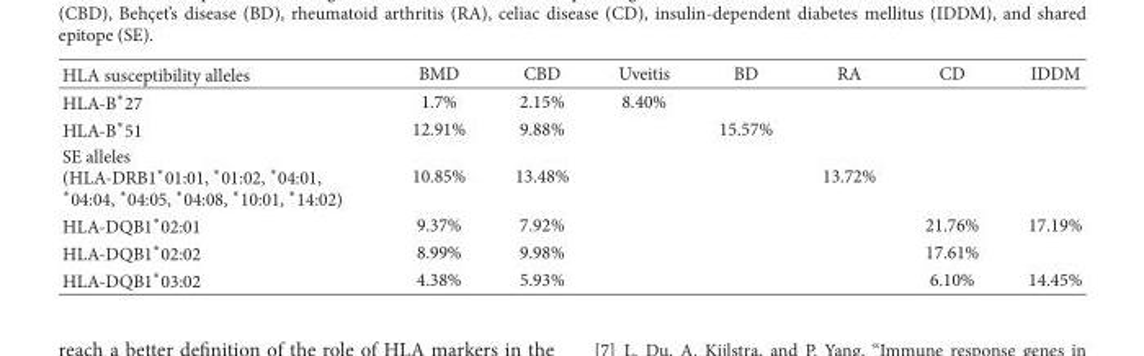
<table><thead><tr><td>HLA susceptibility alleles</td><td>BMD</td><td>CBD</td><td>Uveitis</td><td>BD</td><td>RA</td><td>CD</td><td>IDDM</td></tr></thead><tbody><tr><td>HLA-B∗27</td><td>1.7%</td><td>2.15%</td><td>8.40%</td><td></td><td></td><td></td><td></td></tr><tr><td>HLA-B∗51</td><td>12.91%</td><td>9.88%</td><td></td><td>15.57%</td><td></td><td></td><td></td></tr><tr><td>SE alleles (HLA-DRB1∗01:01, ∗01:02, ∗04:01, ∗04:04, ∗04:05, ∗04:08, ∗10:01, ∗14:02)</td><td>10.85%</td><td>13.48%</td><td></td><td></td><td>13.72%</td><td></td><td></td></tr><tr><td>HLA-DQB1∗02:01</td><td>9.37%</td><td>7.92%</td><td></td><td></td><td></td><td>21.76%</td><td>17.19%</td></tr><tr><td>HLA-DQB1∗02:02</td><td>8.99%</td><td>9.98%</td><td></td><td></td><td></td><td>17.61%</td><td></td></tr><tr><td>HLA-DQB1∗03:02</td><td>4.38%</td><td>5.93%</td><td></td><td></td><td></td><td>6.10%</td><td>14.45%</td></tr></tbody></table>